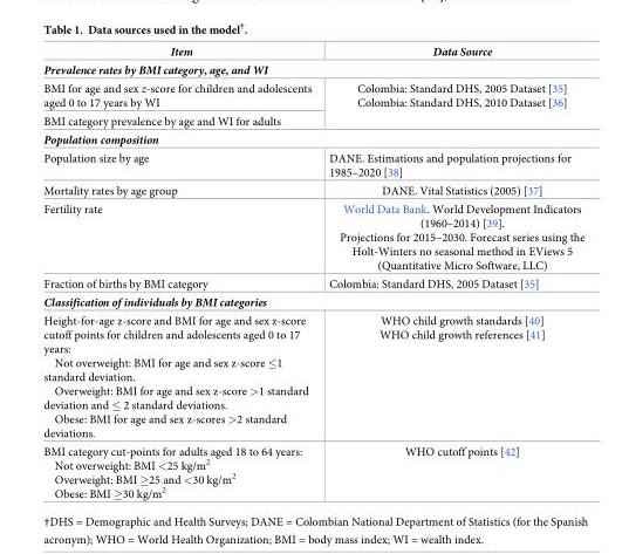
<table><thead><tr><td>Item</td><td>Data Source</td></tr></thead><tbody><tr><td colspan="2">Prevalence rates by BMI category, age, and WI</td></tr><tr><td>BMI for age and sex z-score for children and adolescents aged 0 to 17 years by WI</td><td rowspan="2">Colombia: Standard DHS, 2005 Dataset [35] Colombia: Standard DHS, 2010 Dataset [36]</td></tr><tr><td>BMI category prevalence by age and WI for adults</td></tr><tr><td colspan="2">Population composition</td></tr><tr><td>Population size by age</td><td>DANE. Estimations and population projections for 1985–2020 [38]</td></tr><tr><td>Mortality rates by age group</td><td>DANE. Vital Statistics (2005) [37]</td></tr><tr><td>Fertility rate</td><td>World Data Bank. World Development Indicators (1960–2014) [39]. Projections for 2015–2030. Forecast series using the Holt-Winters no seasonal method in EViews 5 (Quantitative Micro Software, LLC)</td></tr><tr><td>Fraction of births by BMI category</td><td>Colombia: Standard DHS, 2005 Dataset [35]</td></tr><tr><td colspan="2">Classification of individuals by BMI categories</td></tr><tr><td>Height-for-age z-score and BMI for age and sex z-score cutoff points for children and adolescents aged 0 to 17 years: Not overweight: BMI for age and sex z-score ≤1 standard deviation. Overweight: BMI for age and sex z-score &gt;1 standard deviation and ≤ 2 standard deviations. Obese: BMI for age and sex z-scores &gt;2 standard deviations.</td><td>WHO child growth standards [40] WHO child growth references [41]</td></tr><tr><td>BMI category cut-points for adults aged 18 to 64 years: Not overweight: BMI &lt;25 kg/m<sup>2</sup> Overweight: BMI ≥25 and &lt;30 kg/m<sup>2</sup> Obese: BMI ≥30 kg/m<sup>2</sup></td><td>WHO cutoff points [42]</td></tr></tbody></table>